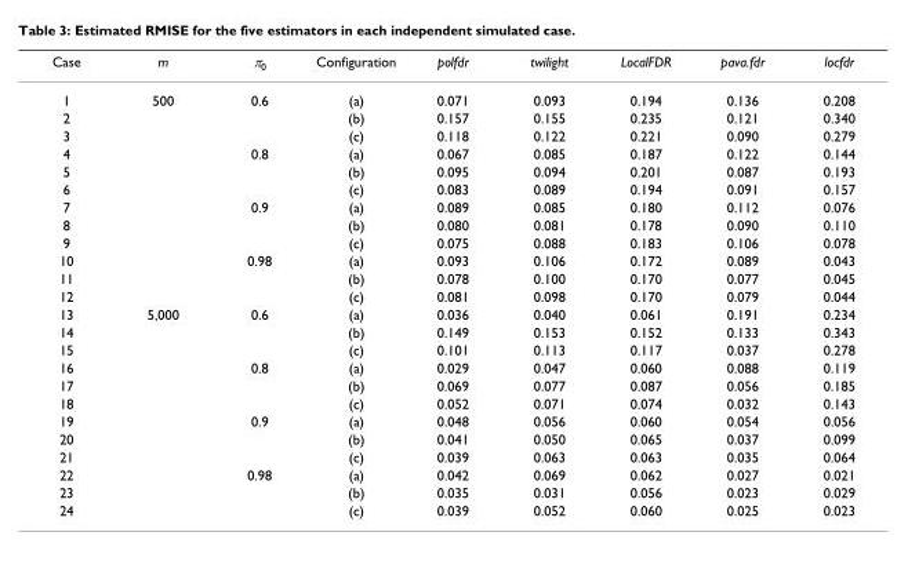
<table><thead><tr><td>Case</td><td>m</td><td>π<sub>0</sub></td><td>Configuration</td><td>polfdr</td><td>twilight</td><td>LocalFDR</td><td>pava.fdr</td><td>locfdr</td></tr></thead><tbody><tr><td>1</td><td>500</td><td>0.6</td><td>(a)</td><td>0.071</td><td>0.093</td><td>0.194</td><td>0.136</td><td>0.208</td></tr><tr><td>2</td><td></td><td></td><td>(b)</td><td>0.157</td><td>0.155</td><td>0.235</td><td>0.121</td><td>0.340</td></tr><tr><td>3</td><td></td><td></td><td>(c)</td><td>0.118</td><td>0.122</td><td>0.221</td><td>0.090</td><td>0.279</td></tr><tr><td>4</td><td></td><td>0.8</td><td>(a)</td><td>0.067</td><td>0.085</td><td>0.187</td><td>0.122</td><td>0.144</td></tr><tr><td>5</td><td></td><td></td><td>(b)</td><td>0.095</td><td>0.094</td><td>0.201</td><td>0.087</td><td>0.193</td></tr><tr><td>6</td><td></td><td></td><td>(c)</td><td>0.083</td><td>0.089</td><td>0.194</td><td>0.091</td><td>0.157</td></tr><tr><td>7</td><td></td><td>0.9</td><td>(a)</td><td>0.089</td><td>0.085</td><td>0.180</td><td>0.112</td><td>0.076</td></tr><tr><td>8</td><td></td><td></td><td>(b)</td><td>0.080</td><td>0.081</td><td>0.178</td><td>0.090</td><td>0.110</td></tr><tr><td>9</td><td></td><td></td><td>(c)</td><td>0.075</td><td>0.088</td><td>0.183</td><td>0.106</td><td>0.078</td></tr><tr><td>10</td><td></td><td>0.98</td><td>(a)</td><td>0.093</td><td>0.106</td><td>0.172</td><td>0.089</td><td>0.043</td></tr><tr><td>11</td><td></td><td></td><td>(b)</td><td>0.078</td><td>0.100</td><td>0.170</td><td>0.077</td><td>0.045</td></tr><tr><td>12</td><td></td><td></td><td>(c)</td><td>0.081</td><td>0.098</td><td>0.170</td><td>0.079</td><td>0.044</td></tr><tr><td>13</td><td>5,000</td><td>0.6</td><td>(a)</td><td>0.036</td><td>0.040</td><td>0.061</td><td>0.191</td><td>0.234</td></tr><tr><td>14</td><td></td><td></td><td>(b)</td><td>0.149</td><td>0.153</td><td>0.152</td><td>0.133</td><td>0.343</td></tr><tr><td>15</td><td></td><td></td><td>(c)</td><td>0.101</td><td>0.113</td><td>0.117</td><td>0.037</td><td>0.278</td></tr><tr><td>16</td><td></td><td>0.8</td><td>(a)</td><td>0.029</td><td>0.047</td><td>0.060</td><td>0.088</td><td>0.119</td></tr><tr><td>17</td><td></td><td></td><td>(b)</td><td>0.069</td><td>0.077</td><td>0.087</td><td>0.056</td><td>0.185</td></tr><tr><td>18</td><td></td><td></td><td>(c)</td><td>0.052</td><td>0.071</td><td>0.074</td><td>0.032</td><td>0.143</td></tr><tr><td>19</td><td></td><td>0.9</td><td>(a)</td><td>0.048</td><td>0.056</td><td>0.060</td><td>0.054</td><td>0.056</td></tr><tr><td>20</td><td></td><td></td><td>(b)</td><td>0.041</td><td>0.050</td><td>0.065</td><td>0.037</td><td>0.099</td></tr><tr><td>21</td><td></td><td></td><td>(c)</td><td>0.039</td><td>0.063</td><td>0.063</td><td>0.035</td><td>0.064</td></tr><tr><td>22</td><td></td><td>0.98</td><td>(a)</td><td>0.042</td><td>0.069</td><td>0.062</td><td>0.027</td><td>0.021</td></tr><tr><td>23</td><td></td><td></td><td>(b)</td><td>0.035</td><td>0.031</td><td>0.056</td><td>0.023</td><td>0.029</td></tr><tr><td>24</td><td></td><td></td><td>(c)</td><td>0.039</td><td>0.052</td><td>0.060</td><td>0.025</td><td>0.023</td></tr></tbody></table>